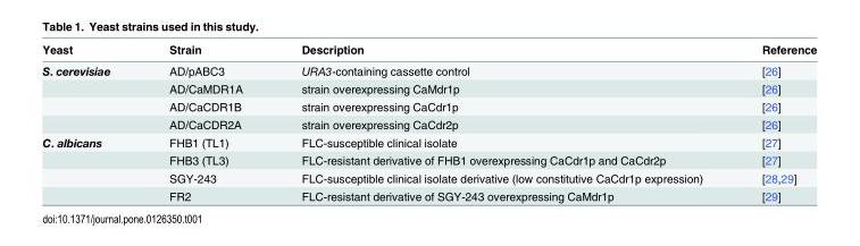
<table><thead><tr><td>Yeast</td><td>Strain</td><td>Description</td><td>Reference</td></tr></thead><tbody><tr><td rowspan="4">S. cerevisiae</td><td>AD/pABC3</td><td>URA3-containing cassette control</td><td>[26]</td></tr><tr><td>AD/CaMDR1A</td><td>strain overexpressing CaMdr1p</td><td>[26]</td></tr><tr><td>AD/CaCDR1B</td><td>strain overexpressing CaCdr1p</td><td>[26]</td></tr><tr><td>AD/CaCDR2A</td><td>strain overexpressing CaCdr2p</td><td>[26]</td></tr><tr><td rowspan="4">C. albicans</td><td>FHB1 (TL1)</td><td>FLC-susceptible clinical isolate</td><td>[27]</td></tr><tr><td>FHB3 (TL3)</td><td>FLC-resistant derivative of FHB1 overexpressing CaCdr1p and CaCdr2p</td><td>[27]</td></tr><tr><td>SGY-243</td><td>FLC-susceptible clinical isolate derivative (low constitutive CaCdr1p expression)</td><td>[28,29]</td></tr><tr><td>FR2</td><td>FLC-resistant derivative of SGY-243 overexpressing CaMdr1p</td><td>[29]</td></tr></tbody></table>